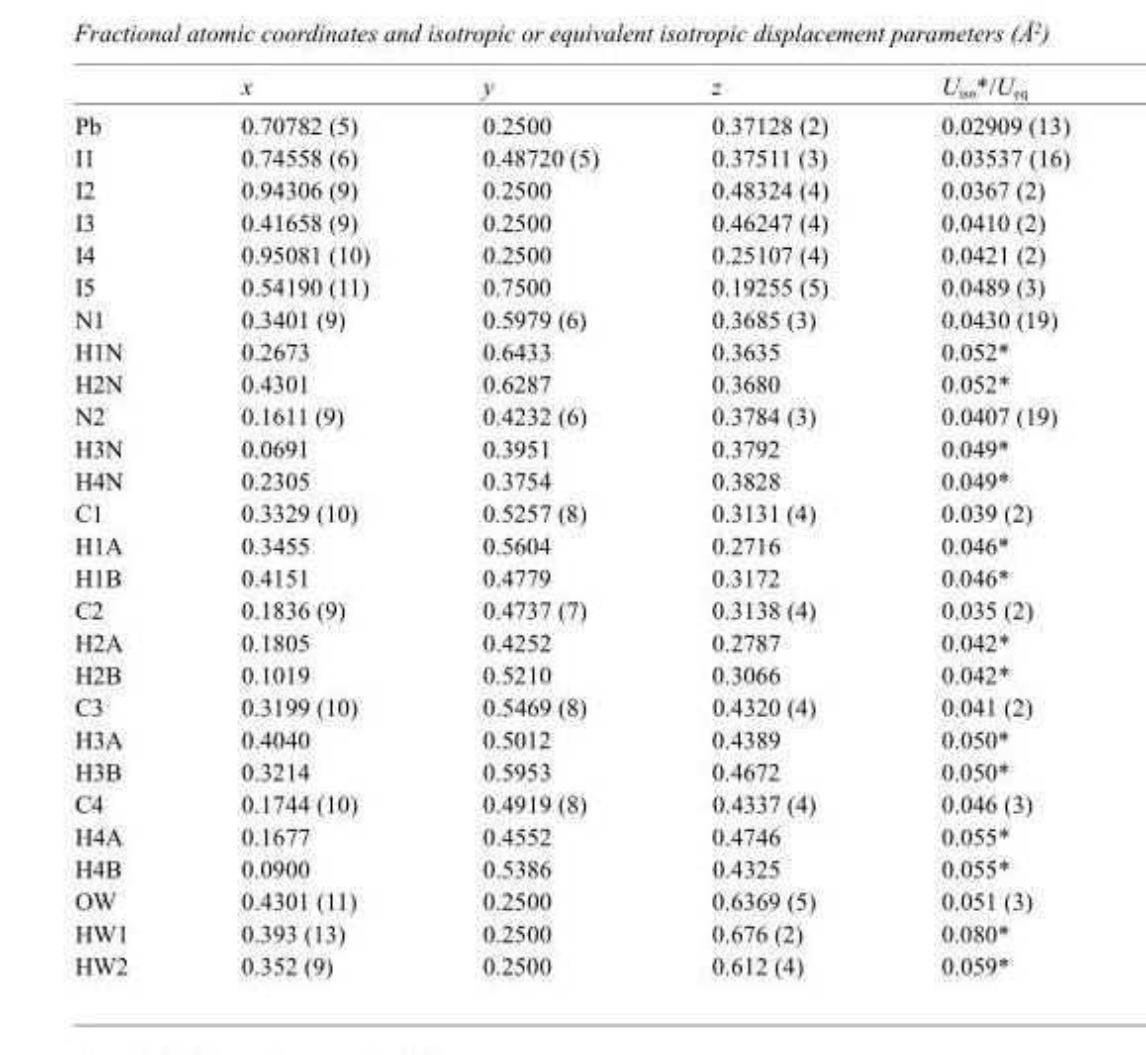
<table><thead><tr><td></td><td>x</td><td>y</td><td>z</td><td>U<sub>iso</sub>*/U<sub>eq</sub></td></tr></thead><tbody><tr><td>Pb</td><td>0.70782 (5)</td><td>0.2500</td><td>0.37128 (2)</td><td>0.02909 (13)</td></tr><tr><td>I1</td><td>0.74558 (6)</td><td>0.48720 (5)</td><td>0.37511 (3)</td><td>0.03537 (16)</td></tr><tr><td>I2</td><td>0.94306 (9)</td><td>0.2500</td><td>0.48324 (4)</td><td>0.0367 (2)</td></tr><tr><td>I3</td><td>0.41658 (9)</td><td>0.2500</td><td>0.46247 (4)</td><td>0.0410 (2)</td></tr><tr><td>I4</td><td>0.95081 (10)</td><td>0.2500</td><td>0.25107 (4)</td><td>0.0421 (2)</td></tr><tr><td>I5</td><td>0.54190 (11)</td><td>0.7500</td><td>0.19255 (5)</td><td>0.0489 (3)</td></tr><tr><td>N1</td><td>0.3401 (9)</td><td>0.5979 (6)</td><td>0.3685 (3)</td><td>0.0430 (19)</td></tr><tr><td>H1N</td><td>0.2673</td><td>0.6433</td><td>0.3635</td><td>0.052*</td></tr><tr><td>H2N</td><td>0.4301</td><td>0.6287</td><td>0.3680</td><td>0.052*</td></tr><tr><td>N2</td><td>0.1611 (9)</td><td>0.4232 (6)</td><td>0.3784 (3)</td><td>0.0407 (19)</td></tr><tr><td>H3N</td><td>0.0691</td><td>0.3951</td><td>0.3792</td><td>0.049*</td></tr><tr><td>H4N</td><td>0.2305</td><td>0.3754</td><td>0.3828</td><td>0.049*</td></tr><tr><td>C1</td><td>0.3329 (10)</td><td>0.5257 (8)</td><td>0.3131 (4)</td><td>0.039 (2)</td></tr><tr><td>H1A</td><td>0.3455</td><td>0.5604</td><td>0.2716</td><td>0.046*</td></tr><tr><td>H1B</td><td>0.4151</td><td>0.4779</td><td>0.3172</td><td>0.046*</td></tr><tr><td>C2</td><td>0.1836 (9)</td><td>0.4737 (7)</td><td>0.3138 (4)</td><td>0.035 (2)</td></tr><tr><td>H2A</td><td>0.1805</td><td>0.4252</td><td>0.2787</td><td>0.042*</td></tr><tr><td>H2B</td><td>0.1019</td><td>0.5210</td><td>0.3066</td><td>0.042*</td></tr><tr><td>C3</td><td>0.3199 (10)</td><td>0.5469 (8)</td><td>0.4320 (4)</td><td>0.041 (2)</td></tr><tr><td>H3A</td><td>0.4040</td><td>0.5012</td><td>0.4389</td><td>0.050*</td></tr><tr><td>H3B</td><td>0.3214</td><td>0.5953</td><td>0.4672</td><td>0.050*</td></tr><tr><td>C4</td><td>0.1744 (10)</td><td>0.4919 (8)</td><td>0.4337 (4)</td><td>0.046 (3)</td></tr><tr><td>H4A</td><td>0.1677</td><td>0.4552</td><td>0.4746</td><td>0.055*</td></tr><tr><td>H4B</td><td>0.0900</td><td>0.5386</td><td>0.4325</td><td>0.055*</td></tr><tr><td>OW</td><td>0.4301 (11)</td><td>0.2500</td><td>0.6369 (5)</td><td>0.051 (3)</td></tr><tr><td>HW1</td><td>0.393 (13)</td><td>0.2500</td><td>0.676 (2)</td><td>0.080*</td></tr><tr><td>HW2</td><td>0.352 (9)</td><td>0.2500</td><td>0.612 (4)</td><td>0.059*</td></tr></tbody></table>